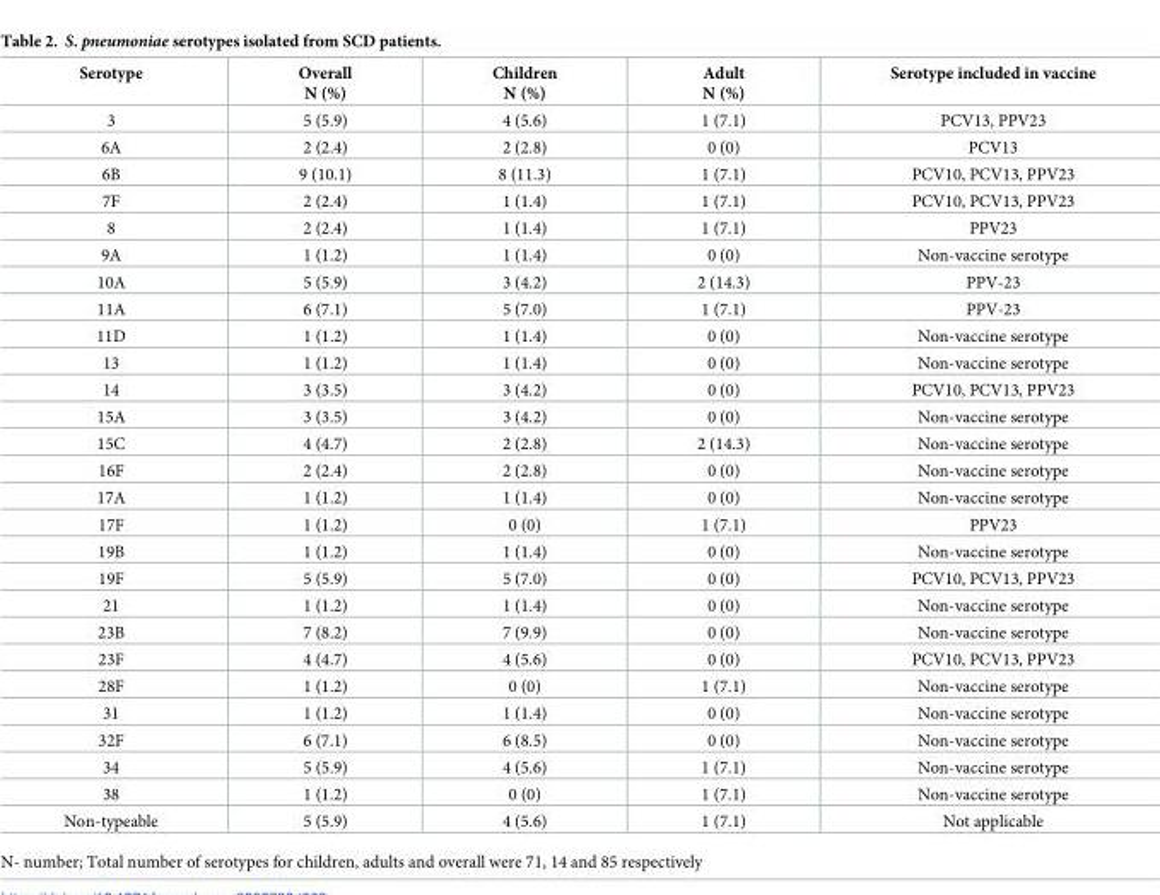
<table><thead><tr><td>Serotype</td><td>Overall N (%)</td><td>Children N (%)</td><td>Adult N (%)</td><td>Serotype included in vaccine</td></tr></thead><tbody><tr><td>3</td><td>5 (5.9)</td><td>4 (5.6)</td><td>1 (7.1)</td><td>PCV13, PPV23</td></tr><tr><td>6A</td><td>2 (2.4)</td><td>2 (2.8)</td><td>0 (0)</td><td>PCV13</td></tr><tr><td>6B</td><td>9 (10.1)</td><td>8 (11.3)</td><td>1 (7.1)</td><td>PCV10, PCV13, PPV23</td></tr><tr><td>7F</td><td>2 (2.4)</td><td>1 (1.4)</td><td>1 (7.1)</td><td>PCV10, PCV13, PPV23</td></tr><tr><td>8</td><td>2 (2.4)</td><td>1 (1.4)</td><td>1 (7.1)</td><td>PPV23</td></tr><tr><td>9A</td><td>1 (1.2)</td><td>1 (1.4)</td><td>0 (0)</td><td>Non-vaccine serotype</td></tr><tr><td>10A</td><td>5 (5.9)</td><td>3 (4.2)</td><td>2 (14.3)</td><td>PPV-23</td></tr><tr><td>11A</td><td>6 (7.1)</td><td>5 (7.0)</td><td>1 (7.1)</td><td>PPV-23</td></tr><tr><td>11D</td><td>1 (1.2)</td><td>1 (1.4)</td><td>0 (0)</td><td>Non-vaccine serotype</td></tr><tr><td>13</td><td>1 (1.2)</td><td>1 (1.4)</td><td>0 (0)</td><td>Non-vaccine serotype</td></tr><tr><td>14</td><td>3 (3.5)</td><td>3 (4.2)</td><td>0 (0)</td><td>PCV10, PCV13, PPV23</td></tr><tr><td>15A</td><td>3 (3.5)</td><td>3 (4.2)</td><td>0 (0)</td><td>Non-vaccine serotype</td></tr><tr><td>15C</td><td>4 (4.7)</td><td>2 (2.8)</td><td>2 (14.3)</td><td>Non-vaccine serotype</td></tr><tr><td>16F</td><td>2 (2.4)</td><td>2 (2.8)</td><td>0 (0)</td><td>Non-vaccine serotype</td></tr><tr><td>17A</td><td>1 (1.2)</td><td>1 (1.4)</td><td>0 (0)</td><td>Non-vaccine serotype</td></tr><tr><td>17F</td><td>1 (1.2)</td><td>0 (0)</td><td>1 (7.1)</td><td>PPV23</td></tr><tr><td>19B</td><td>1 (1.2)</td><td>1 (1.4)</td><td>0 (0)</td><td>Non-vaccine serotype</td></tr><tr><td>19F</td><td>5 (5.9)</td><td>5 (7.0)</td><td>0 (0)</td><td>PCV10, PCV13, PPV23</td></tr><tr><td>21</td><td>1 (1.2)</td><td>1 (1.4)</td><td>0 (0)</td><td>Non-vaccine serotype</td></tr><tr><td>23B</td><td>7 (8.2)</td><td>7 (9.9)</td><td>0 (0)</td><td>Non-vaccine serotype</td></tr><tr><td>23F</td><td>4 (4.7)</td><td>4 (5.6)</td><td>0 (0)</td><td>PCV10, PCV13, PPV23</td></tr><tr><td>28F</td><td>1 (1.2)</td><td>0 (0)</td><td>1 (7.1)</td><td>Non-vaccine serotype</td></tr><tr><td>31</td><td>1 (1.2)</td><td>1 (1.4)</td><td>0 (0)</td><td>Non-vaccine serotype</td></tr><tr><td>32F</td><td>6 (7.1)</td><td>6 (8.5)</td><td>0 (0)</td><td>Non-vaccine serotype</td></tr><tr><td>34</td><td>5 (5.9)</td><td>4 (5.6)</td><td>1 (7.1)</td><td>Non-vaccine serotype</td></tr><tr><td>38</td><td>1 (1.2)</td><td>0 (0)</td><td>1 (7.1)</td><td>Non-vaccine serotype</td></tr><tr><td>Non-typeable</td><td>5 (5.9)</td><td>4 (5.6)</td><td>1 (7.1)</td><td>Not applicable</td></tr></tbody></table>